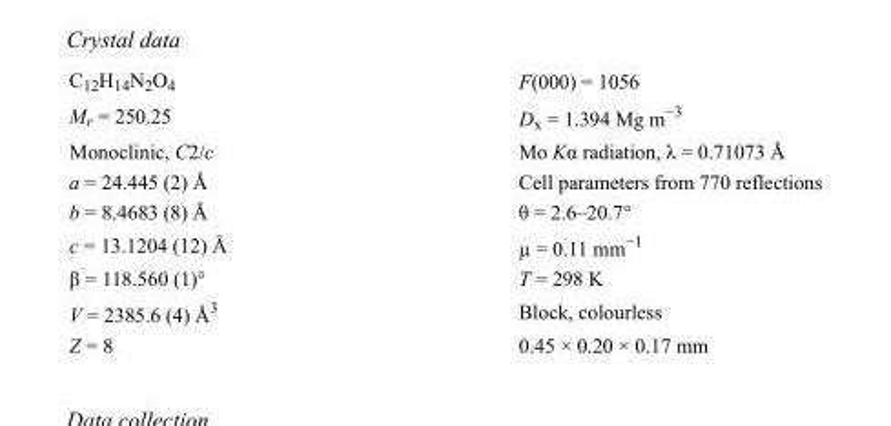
<table><tbody><tr><td>C<sub>12</sub>H<sub>14</sub>N<sub>2</sub>O<sub>4</sub></td><td>F(000) = 1056</td></tr><tr><td>M<sub>r</sub> = 250.25</td><td>D<sub>x</sub> = 1.394 Mg m<sup>−3</sup></td></tr><tr><td>Monoclinic, C2/c</td><td>Mo Kα radiation, λ = 0.71073 Å</td></tr><tr><td>a = 24.445 (2) Å</td><td>Cell parameters from 770 reflections</td></tr><tr><td>b = 8.4683 (8) Å</td><td>θ = 2.6–20.7°</td></tr><tr><td>c = 13.1204 (12) Å</td><td>µ = 0.11 mm<sup>−1</sup></td></tr><tr><td>β = 118.560 (1)°</td><td>T = 298 K</td></tr><tr><td>V = 2385.6 (4) Å<sup>3</sup></td><td>Block, colourless</td></tr><tr><td>Z = 8</td><td>0.45 × 0.20 × 0.17 mm</td></tr></tbody></table>